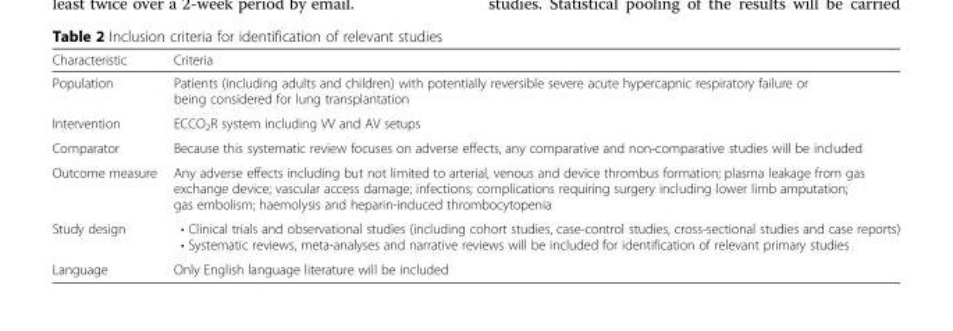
<table><thead><tr><td>Characteristic</td><td>Criteria</td></tr></thead><tbody><tr><td>Population</td><td>Patients (including adults and children) with potentially reversible severe acute hypercapnic respiratory failure or being considered for lung transplantation</td></tr><tr><td>Intervention</td><td>ECCO<sub>2</sub>R system including VV and AV setups</td></tr><tr><td>Comparator</td><td>Because this systematic review focuses on adverse effects, any comparative and non-comparative studies will be included</td></tr><tr><td>Outcome measure</td><td>Any adverse effects including but not limited to arterial, venous and device thrombus formation; plasma leakage from gas exchange device; vascular access damage; infections; complications requiring surgery including lower limb amputation; gas embolism; haemolysis and heparin-induced thrombocytopenia</td></tr><tr><td>Study design</td><td>• Clinical trials and observational studies (including cohort studies, case-control studies, cross-sectional studies and case reports) • Systematic reviews, meta-analyses and narrative reviews will be included for identification of relevant primary studies</td></tr><tr><td>Language</td><td>Only English language literature will be included</td></tr></tbody></table>